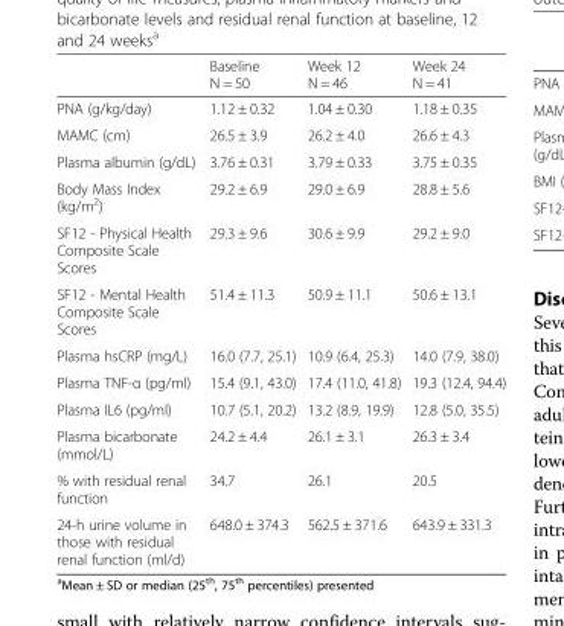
<table><thead><tr><td></td><td>Baseline N = 50</td><td>Week 12 N = 46</td><td>Week 24 N = 41</td></tr></thead><tbody><tr><td>PNA (g/kg/day)</td><td>1.12 ± 0.32</td><td>1.04 ± 0.30</td><td>1.18 ± 0.35</td></tr><tr><td>MAMC (cm)</td><td>26.5 ± 3.9</td><td>26.2 ± 4.0</td><td>26.6 ± 4.3</td></tr><tr><td>Plasma albumin (g/dL)</td><td>3.76 ± 0.31</td><td>3.79 ± 0.33</td><td>3.75 ± 0.35</td></tr><tr><td>Body Mass Index (kg/m<sup>2</sup>)</td><td>29.2 ± 6.9</td><td>29.0 ± 6.9</td><td>28.8 ± 5.6</td></tr><tr><td>SF12 - Physical Health Composite Scale Scores</td><td>29.3 ± 9.6</td><td>30.6 ± 9.9</td><td>29.2 ± 9.0</td></tr><tr><td>SF12 - Mental Health Composite Scale Scores</td><td>51.4 ± 11.3</td><td>50.9 ± 11.1</td><td>50.6 ± 13.1</td></tr><tr><td>Plasma hsCRP (mg/L)</td><td>16.0 (7.7, 25.1)</td><td>10.9 (6.4, 25.3)</td><td>14.0 (7.9, 38.0)</td></tr><tr><td>Plasma TNF-α (pg/ml)</td><td>15.4 (9.1, 43.0)</td><td>17.4 (11.0, 41.8)</td><td>19.3 (12.4, 94.4)</td></tr><tr><td>Plasma IL6 (pg/ml)</td><td>10.7 (5.1, 20.2)</td><td>13.2 (8.9, 19.9)</td><td>12.8 (5.0, 35.5)</td></tr><tr><td>Plasma bicarbonate (mmol/L)</td><td>24.2 ± 4.4</td><td>26.1 ± 3.1</td><td>26.3 ± 3.4</td></tr><tr><td>% with residual renal function</td><td>34.7</td><td>26.1</td><td>20.5</td></tr><tr><td>24-h urine volume in those with residual renal function (ml/d)</td><td>648.0 ± 374.3</td><td>562.5 ± 371.6</td><td>643.9 ± 331.3</td></tr></tbody></table>